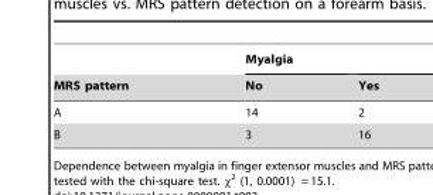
<table><thead><tr><td rowspan="2">MRS pattern</td><td rowspan="2">Myalgia No</td><td rowspan="2">Yes</td></tr><tr></tr></thead><tbody><tr><td>A</td><td>14</td><td>2</td></tr><tr><td>B</td><td>3</td><td>16</td></tr></tbody></table>